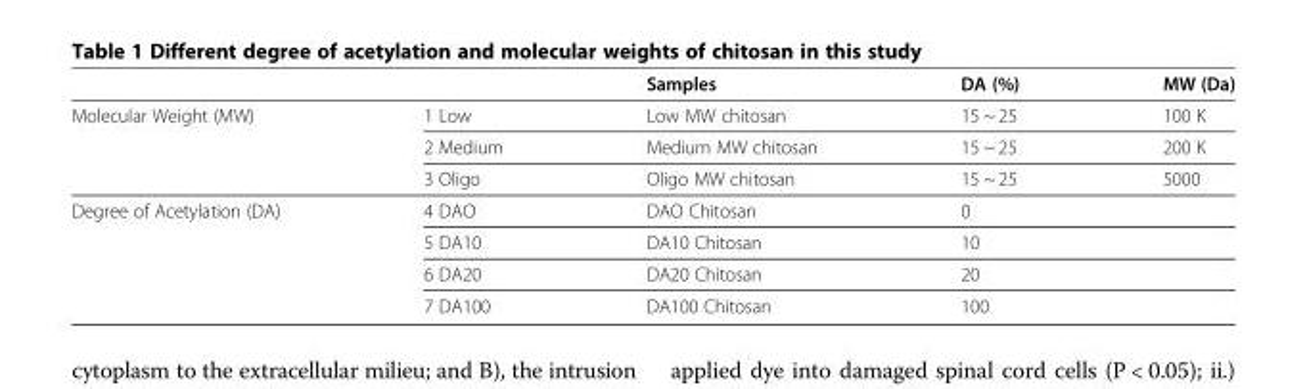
<table><thead><tr><td></td><td></td><td>Samples</td><td>DA (%)</td><td>MW (Da)</td></tr></thead><tbody><tr><td rowspan="3">Molecular Weight (MW)</td><td>1 Low</td><td>Low MW chitosan</td><td>15 ~ 25</td><td>100 K</td></tr><tr><td>2 Medium</td><td>Medium MW chitosan</td><td>15 ~ 25</td><td>200 K</td></tr><tr><td>3 Oligo</td><td>Oligo MW chitosan</td><td>15 ~ 25</td><td>5000</td></tr><tr><td rowspan="4">Degree of Acetylation (DA)</td><td>4 DAO</td><td>DAO Chitosan</td><td>0</td><td></td></tr><tr><td>5 DA10</td><td>DA10 Chitosan</td><td>10</td><td></td></tr><tr><td>6 DA20</td><td>DA20 Chitosan</td><td>20</td><td></td></tr><tr><td>7 DA100</td><td>DA100 Chitosan</td><td>100</td><td></td></tr></tbody></table>